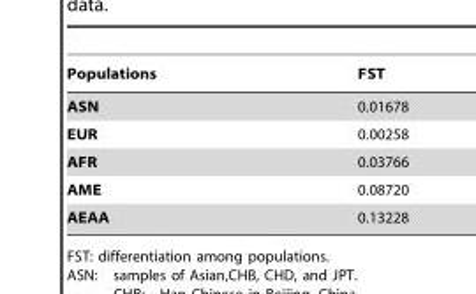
<table><thead><tr><td>Populations</td><td>FST</td></tr></thead><tbody><tr><td>ASN</td><td>0.01678</td></tr><tr><td>EUR</td><td>0.00258</td></tr><tr><td>AFR</td><td>0.03766</td></tr><tr><td>AME</td><td>0.08720</td></tr><tr><td>AEAA</td><td>0.13228</td></tr></tbody></table>